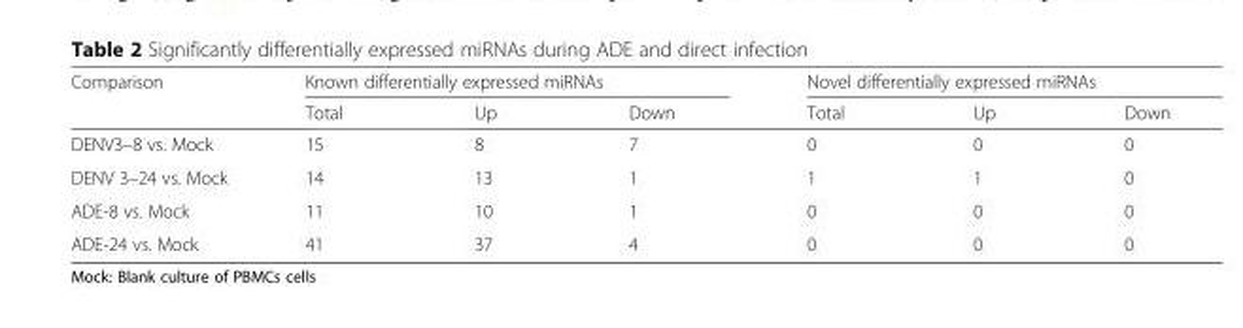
<table><thead><tr><td rowspan="2">Comparison</td><td colspan="3">Known differentially expressed miRNAs</td><td colspan="3">Novel differentially expressed miRNAs</td></tr><tr><td>Total</td><td>Up</td><td>Down</td><td>Total</td><td>Up</td><td>Down</td></tr></thead><tbody><tr><td>DENV3–8 vs. Mock</td><td>15</td><td>8</td><td>7</td><td>0</td><td>0</td><td>0</td></tr><tr><td>DENV 3–24 vs. Mock</td><td>14</td><td>13</td><td>1</td><td>1</td><td>1</td><td>0</td></tr><tr><td>ADE-8 vs. Mock</td><td>11</td><td>10</td><td>1</td><td>0</td><td>0</td><td>0</td></tr><tr><td>ADE-24 vs. Mock</td><td>41</td><td>37</td><td>4</td><td>0</td><td>0</td><td>0</td></tr></tbody></table>